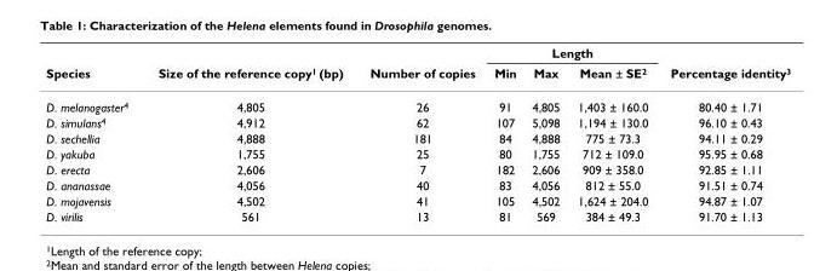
<table><thead><tr><td rowspan="2">Species</td><td rowspan="2">Size of the reference copy<sup>1</sup> (bp)</td><td rowspan="2">Number of copies</td><td colspan="3">Length</td><td rowspan="2">Percentage identity<sup>3</sup></td></tr><tr><td>Min</td><td>Max</td><td>Mean ± SE<sup>2</sup></td></tr></thead><tbody><tr><td>D. melanogaster<sup>4</sup></td><td>4,805</td><td>26</td><td>91</td><td>4,805</td><td>1,403 ± 160.0</td><td>80.40 ± 1.71</td></tr><tr><td>D. simulans<sup>4</sup></td><td>4,912</td><td>62</td><td>107</td><td>5,098</td><td>1,194 ± 130.0</td><td>96.10 ± 0.43</td></tr><tr><td>D. sechellia</td><td>4,888</td><td>181</td><td>84</td><td>4,888</td><td>775 ± 73.3</td><td>94.11 ± 0.29</td></tr><tr><td>D. yakuba</td><td>1,755</td><td>25</td><td>80</td><td>1,755</td><td>712 ± 109.0</td><td>95.95 ± 0.68</td></tr><tr><td>D. erecta</td><td>2,606</td><td>7</td><td>182</td><td>2,606</td><td>909 ± 358.0</td><td>92.85 ± 1.11</td></tr><tr><td>D. ananassae</td><td>4,056</td><td>40</td><td>83</td><td>4,056</td><td>812 ± 55.0</td><td>91.51 ± 0.74</td></tr><tr><td>D. mojavensis</td><td>4,502</td><td>41</td><td>105</td><td>4,502</td><td>1,624 ± 204.0</td><td>94.87 ± 1.07</td></tr><tr><td>D. virilis</td><td>561</td><td>13</td><td>81</td><td>569</td><td>384 ± 49.3</td><td>91.70 ± 1.13</td></tr></tbody></table>